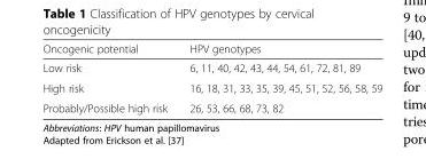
<table><thead><tr><td>Oncogenic potential</td><td>HPV genotypes</td></tr></thead><tbody><tr><td>Low risk</td><td>6, 11, 40, 42, 43, 44, 54, 61, 72, 81, 89</td></tr><tr><td>High risk</td><td>16, 18, 31, 33, 35, 39, 45, 51, 52, 56, 58, 59</td></tr><tr><td>Probably/Possible high risk</td><td>26, 53, 66, 68, 73, 82</td></tr></tbody></table>